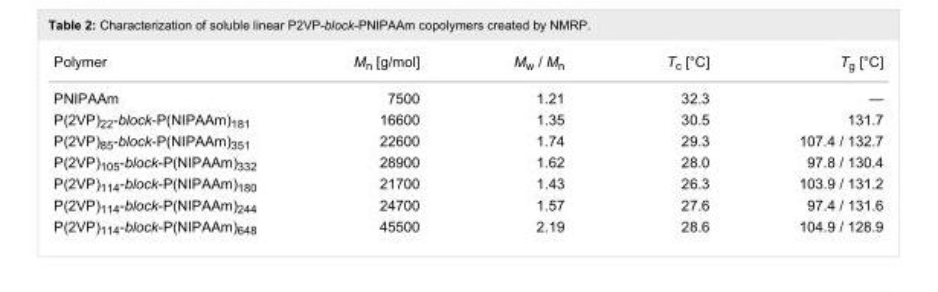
<table><tbody><tr><td>Polymer</td><td>M<sub>n</sub> [g/mol]</td><td>M<sub>w</sub> / M<sub>n</sub></td><td>T<sub>c</sub> [°C]</td><td>T<sub>g</sub> [°C]</td></tr><tr><td>PNIPAAm</td><td>7500</td><td>1.21</td><td>32.3</td><td>—</td></tr><tr><td>P(2VP)<sub>22</sub>-block-P(NIPAAm)<sub>181</sub></td><td>16600</td><td>1.35</td><td>30.5</td><td>131.7</td></tr><tr><td>P(2VP)<sub>85</sub>-block-P(NIPAAm)<sub>351</sub></td><td>22600</td><td>1.74</td><td>29.3</td><td>107.4 / 132.7</td></tr><tr><td>P(2VP)<sub>105</sub>-block-P(NIPAAm)<sub>332</sub></td><td>28900</td><td>1.62</td><td>28.0</td><td>97.8 / 130.4</td></tr><tr><td>P(2VP)<sub>114</sub>-block-P(NIPAAm)<sub>180</sub></td><td>21700</td><td>1.43</td><td>26.3</td><td>103.9 / 131.2</td></tr><tr><td>P(2VP)<sub>114</sub>-block-P(NIPAAm)<sub>244</sub></td><td>24700</td><td>1.57</td><td>27.6</td><td>97.4 / 131.6</td></tr><tr><td>P(2VP)<sub>114</sub>-block-P(NIPAAm)<sub>648</sub></td><td>45500</td><td>2.19</td><td>28.6</td><td>104.9 / 128.9</td></tr></tbody></table>